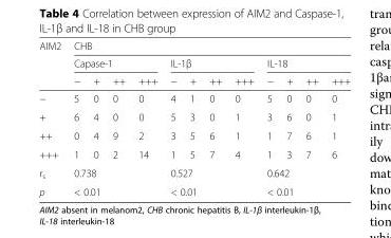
<table><thead><tr><td rowspan="3">AIM2</td><td colspan="12">CHB</td></tr><tr><td colspan="4">Capase-1</td><td colspan="4">IL-1β</td><td colspan="4">IL-18</td></tr><tr><td>−</td><td>+</td><td>++</td><td>+++</td><td>−</td><td>+</td><td>++</td><td>+++</td><td>−</td><td>+</td><td>++</td><td>+++</td></tr></thead><tbody><tr><td>−</td><td>5</td><td>0</td><td>0</td><td>0</td><td>4</td><td>1</td><td>0</td><td>0</td><td>5</td><td>0</td><td>0</td><td>0</td></tr><tr><td>+</td><td>6</td><td>4</td><td>0</td><td>0</td><td>5</td><td>3</td><td>0</td><td>1</td><td>3</td><td>6</td><td>0</td><td>1</td></tr><tr><td>++</td><td>0</td><td>4</td><td>9</td><td>2</td><td>3</td><td>5</td><td>6</td><td>1</td><td>1</td><td>7</td><td>6</td><td>1</td></tr><tr><td>+++</td><td>1</td><td>0</td><td>2</td><td>14</td><td>1</td><td>5</td><td>7</td><td>4</td><td>1</td><td>3</td><td>7</td><td>6</td></tr><tr><td>r<sub>s</sub></td><td colspan="4">0.738</td><td colspan="4">0.527</td><td colspan="4">0.642</td></tr><tr><td>p</td><td colspan="4">&lt; 0.01</td><td colspan="4">&lt; 0.01</td><td colspan="4">&lt; 0.01</td></tr></tbody></table>